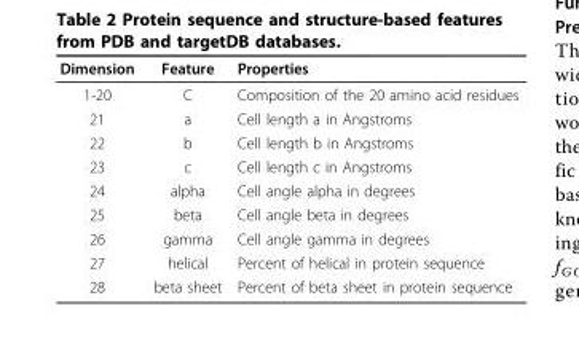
<table><thead><tr><td>Dimension</td><td>Feature</td><td>Properties</td></tr></thead><tbody><tr><td>1-20</td><td>C</td><td>Composition of the 20 amino acid residues</td></tr><tr><td>21</td><td>a</td><td>Cell length a in Angstroms</td></tr><tr><td>22</td><td>b</td><td>Cell length b in Angstroms</td></tr><tr><td>23</td><td>c</td><td>Cell length c in Angstroms</td></tr><tr><td>24</td><td>alpha</td><td>Cell angle alpha in degrees</td></tr><tr><td>25</td><td>beta</td><td>Cell angle beta in degrees</td></tr><tr><td>26</td><td>gamma</td><td>Cell angle gamma in degrees</td></tr><tr><td>27</td><td>helical</td><td>Percent of helical in protein sequence</td></tr><tr><td>28</td><td>beta sheet</td><td>Percent of beta sheet in protein sequence</td></tr></tbody></table>